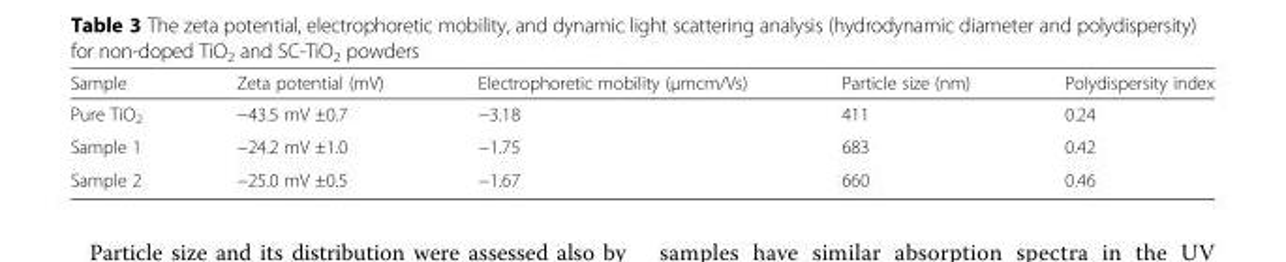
<table><thead><tr><td>Sample</td><td>Zeta potential (mV)</td><td>Electrophoretic mobility (μmcm/Vs)</td><td>Particle size (nm)</td><td>Polydispersity index</td></tr></thead><tbody><tr><td>Pure TiO<sub>2</sub></td><td>−43.5 mV ±0.7</td><td>−3.18</td><td>411</td><td>0.24</td></tr><tr><td>Sample 1</td><td>−24.2 mV ±1.0</td><td>−1.75</td><td>683</td><td>0.42</td></tr><tr><td>Sample 2</td><td>−25.0 mV ±0.5</td><td>−1.67</td><td>660</td><td>0.46</td></tr></tbody></table>